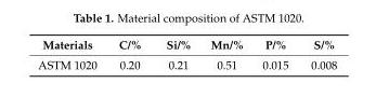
<table><thead><tr><td>Materials</td><td>C/%</td><td>Si/%</td><td>Mn/%</td><td>P/%</td><td>S/%</td></tr></thead><tbody><tr><td>ASTM 1020</td><td>0.20</td><td>0.21</td><td>0.51</td><td>0.015</td><td>0.008</td></tr></tbody></table>